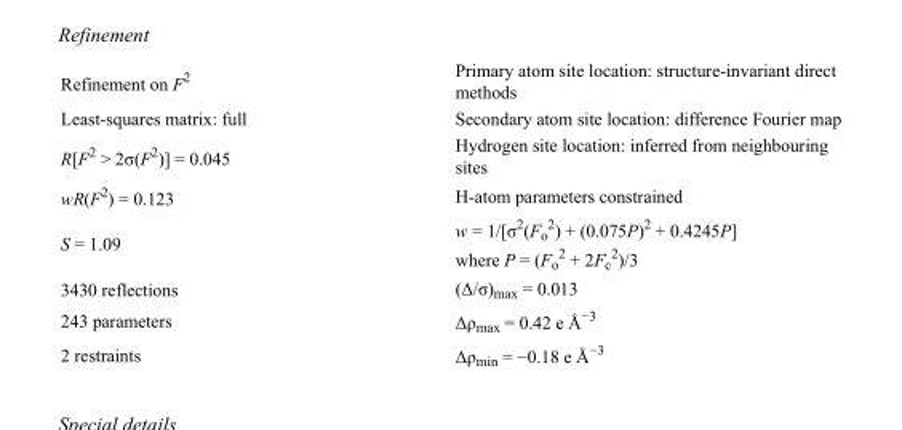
<table><tbody><tr><td>Refinement on F<sup>2</sup></td><td>Primary atom site location: structure-invariant direct methods</td></tr><tr><td>Least-squares matrix: full</td><td>Secondary atom site location: difference Fourier map</td></tr><tr><td>R[F<sup>2</sup> &gt; 2σ(F<sup>2</sup>)] = 0.045</td><td>Hydrogen site location: inferred from neighbouring sites</td></tr><tr><td>wR(F<sup>2</sup>) = 0.123</td><td>H-atom parameters constrained</td></tr><tr><td>S = 1.09</td><td>w = 1/[σ<sup>2</sup>(F<sub>o</sub> <sup>2</sup>) + (0.075P)<sup>2</sup> + 0.4245P] where P = (F<sub>o</sub> <sup>2</sup> + 2F<sub>c</sub> <sup>2</sup>)/3</td></tr><tr><td>3430 reflections</td><td>(Δ/σ)<sub>max</sub> = 0.013</td></tr><tr><td>243 parameters</td><td>Δρ<sub>max</sub> = 0.42 e Å<sup>−3</sup></td></tr><tr><td>2 restraints</td><td>Δρ<sub>min</sub> = −0.18 e Å<sup>−3</sup></td></tr></tbody></table>